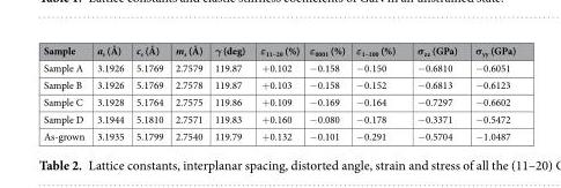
<table><thead><tr><td>Sample</td><td>a<sub>s</sub> (Å)</td><td>c<sub>s</sub> (Å)</td><td>m<sub>s</sub> (Å)</td><td>γ (deg)</td><td>ε<sub>11–20</sub> (%)</td><td>ε<sub>0001</sub> (%)</td><td>ε<sub>1–100</sub> (%)</td><td>σ<sub>zz</sub> (GPa)</td><td>σ<sub>yy</sub> (GPa)</td></tr></thead><tbody><tr><td>Sample A</td><td>3.1926</td><td>5.1769</td><td>2.7579</td><td>119.87</td><td>+0.102</td><td>−0.158</td><td>−0.150</td><td>−0.6810</td><td>−0.6051</td></tr><tr><td>Sample B</td><td>3.1926</td><td>5.1769</td><td>2.7578</td><td>119.87</td><td>+0.103</td><td>−0.158</td><td>−0.152</td><td>−0.6813</td><td>−0.6123</td></tr><tr><td>Sample C</td><td>3.1928</td><td>5.1764</td><td>2.7575</td><td>119.86</td><td>+0.109</td><td>−0.169</td><td>−0.164</td><td>−0.7297</td><td>−0.6602</td></tr><tr><td>Sample D</td><td>3.1944</td><td>5.1810</td><td>2.7571</td><td>119.83</td><td>+0.160</td><td>−0.080</td><td>−0.178</td><td>−0.3371</td><td>−0.5472</td></tr><tr><td>As-grown</td><td>3.1935</td><td>5.1799</td><td>2.7540</td><td>119.79</td><td>+0.132</td><td>−0.101</td><td>−0.291</td><td>−0.5704</td><td>−1.0487</td></tr></tbody></table>